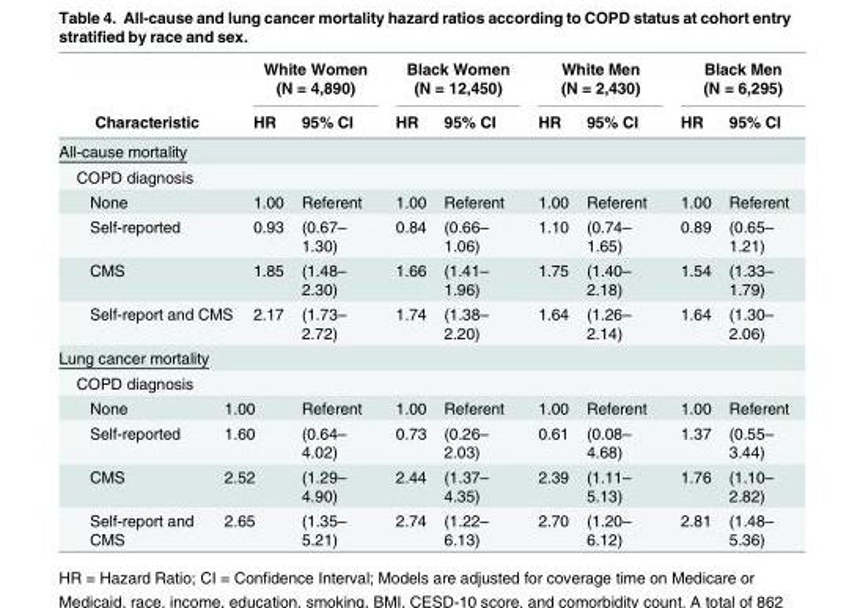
<table><thead><tr><td></td><td></td><td colspan="2">White Women (N = 4,890)</td><td colspan="2">Black Women (N = 12,450)</td><td colspan="2">White Men (N = 2,430)</td><td colspan="2">Black Men (N = 6,295)</td></tr><tr><td colspan="2">Characteristic</td><td>HR</td><td>95% CI</td><td>HR</td><td>95% CI</td><td>HR</td><td>95% CI</td><td>HR</td><td>95% CI</td></tr></thead><tbody><tr><td colspan="10">All-cause mortality</td></tr><tr><td colspan="10">COPD diagnosis</td></tr><tr><td colspan="2">None</td><td>1.00</td><td>Referent</td><td>1.00</td><td>Referent</td><td>1.00</td><td>Referent</td><td>1.00</td><td>Referent</td></tr><tr><td colspan="2">Self-reported</td><td>0.93</td><td>(0.67– 1.30)</td><td>0.84</td><td>(0.66– 1.06)</td><td>1.10</td><td>(0.74– 1.65)</td><td>0.89</td><td>(0.65– 1.21)</td></tr><tr><td colspan="2">CMS</td><td>1.85</td><td>(1.48– 2.30)</td><td>1.66</td><td>(1.41– 1.96)</td><td>1.75</td><td>(1.40– 2.18)</td><td>1.54</td><td>(1.33– 1.79)</td></tr><tr><td colspan="2">Self-report and CMS</td><td>2.17</td><td>(1.73– 2.72)</td><td>1.74</td><td>(1.38– 2.20)</td><td>1.64</td><td>(1.26– 2.14)</td><td>1.64</td><td>(1.30– 2.06)</td></tr><tr><td colspan="10">Lung cancer mortality</td></tr><tr><td colspan="10">COPD diagnosis</td></tr><tr><td>None</td><td colspan="2">1.00</td><td>Referent</td><td>1.00</td><td>Referent</td><td>1.00</td><td>Referent</td><td>1.00</td><td>Referent</td></tr><tr><td>Self-reported</td><td colspan="2">1.60</td><td>(0.64– 4.02)</td><td>0.73</td><td>(0.26– 2.03)</td><td>0.61</td><td>(0.08– 4.68)</td><td>1.37</td><td>(0.55– 3.44)</td></tr><tr><td>CMS</td><td colspan="2">2.52</td><td>(1.29– 4.90)</td><td>2.44</td><td>(1.37– 4.35)</td><td>2.39</td><td>(1.11– 5.13)</td><td>1.76</td><td>(1.10– 2.82)</td></tr><tr><td>Self-report and CMS</td><td colspan="2">2.65</td><td>(1.35– 5.21)</td><td>2.74</td><td>(1.22– 6.13)</td><td>2.70</td><td>(1.20– 6.12)</td><td>2.81</td><td>(1.48– 5.36)</td></tr></tbody></table>